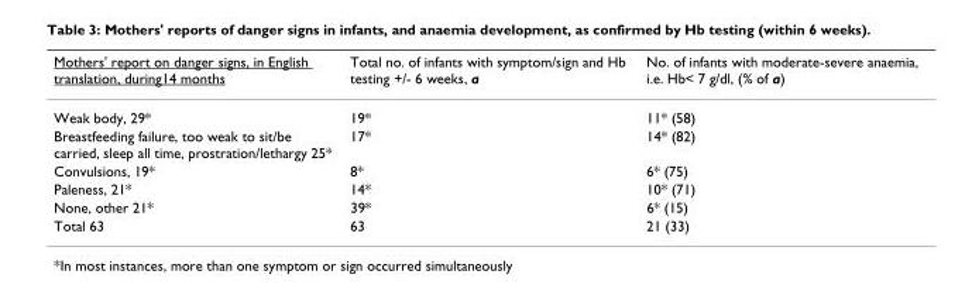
<table><thead><tr><td>Mothers&#x27; report on danger signs, in English translation, during14 months</td><td>Total no. of infants with symptom/sign and Hb testing +/- 6 weeks, a</td><td>No. of infants with moderate-severe anaemia, i.e. Hb&lt; 7 g/dl, (% of a)</td></tr></thead><tbody><tr><td>Weak body, 29*</td><td>19*</td><td>11* (58)</td></tr><tr><td>Breastfeeding failure, too weak to sit/be carried, sleep all time, prostration/lethargy 25*</td><td>17*</td><td>14* (82)</td></tr><tr><td>Convulsions, 19*</td><td>8*</td><td>6* (75)</td></tr><tr><td>Paleness, 21*</td><td>14*</td><td>10* (71)</td></tr><tr><td>None, other 21*</td><td>39*</td><td>6* (15)</td></tr><tr><td>Total 63</td><td>63</td><td>21 (33)</td></tr></tbody></table>